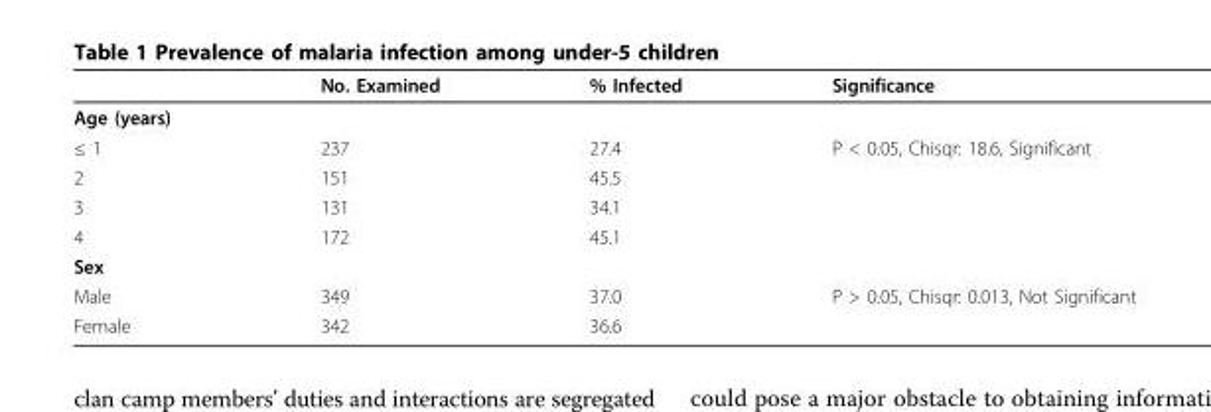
<table><thead><tr><td></td><td>No. Examined</td><td>% Infected</td><td>Significance</td></tr></thead><tbody><tr><td colspan="4">Age (years)</td></tr><tr><td>≤ 1</td><td>237</td><td>27.4</td><td>P &lt; 0.05, Chisqr: 18.6, Significant</td></tr><tr><td>2</td><td>151</td><td>45.5</td><td></td></tr><tr><td>3</td><td>131</td><td>34.1</td><td></td></tr><tr><td>4</td><td>172</td><td>45.1</td><td></td></tr><tr><td colspan="4">Sex</td></tr><tr><td>Male</td><td>349</td><td>37.0</td><td>P &gt; 0.05, Chisqr: 0.013, Not Significant</td></tr><tr><td>Female</td><td>342</td><td>36.6</td><td></td></tr></tbody></table>